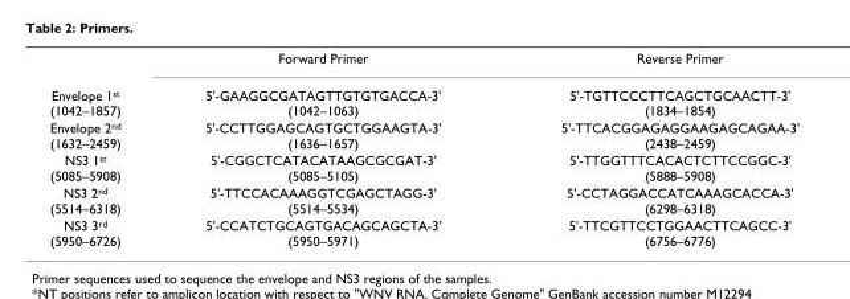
<table><thead><tr><td></td><td>Forward Primer</td><td>Reverse Primer</td></tr></thead><tbody><tr><td>Envelope 1<sup>st</sup> (1042–1857)</td><td>5&#x27;-GAAGGCGATAGTTGTGTGACCA-3&#x27; (1042–1063)</td><td>5&#x27;-TGTTCCCTTCAGCTGCAACTT-3&#x27; (1834–1854)</td></tr><tr><td>Envelope 2<sup>nd</sup> (1632–2459)</td><td>5&#x27;-CCTTGGAGCAGTGCTGGAAGTA-3&#x27; (1636–1657)</td><td>5&#x27;-TTCACGGAGAGGAAGAGCAGAA-3&#x27; (2438–2459)</td></tr><tr><td>NS3 1<sup>st</sup> (5085–5908)</td><td>5&#x27;-CGGCTCATACATAAGCGCGAT-3&#x27; (5085–5105)</td><td>5&#x27;-TTGGTTTCACACTCTTCCGGC-3&#x27; (5888–5908)</td></tr><tr><td>NS3 2<sup>nd</sup> (5514–6318)</td><td>5&#x27;-TTCCACAAAGGTCGAGCTAGG-3&#x27; (5514–5534)</td><td>5&#x27;-CCTAGGACCATCAAAGCACCA-3&#x27; (6298–6318)</td></tr><tr><td>NS3 3<sup>rd</sup> (5950–6726)</td><td>5&#x27;-CCATCTGCAGTGACAGCAGCTA-3&#x27; (5950–5971)</td><td>5&#x27;-TTCGTTCCTGGAACTTCAGCC-3&#x27; (6756–6776)</td></tr></tbody></table>